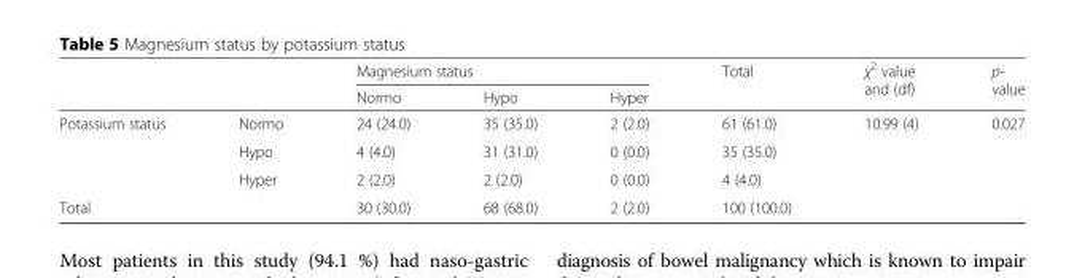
<table><thead><tr><td rowspan="2"></td><td rowspan="2"></td><td colspan="3">Magnesium status</td><td rowspan="2">Total</td><td rowspan="2">χ<sup>2</sup> value and (df)</td><td rowspan="2">p- value</td></tr><tr><td>Normo</td><td>Hypo</td><td>Hyper</td></tr></thead><tbody><tr><td rowspan="3">Potassium status</td><td>Normo</td><td>24 (24.0)</td><td>35 (35.0)</td><td>2 (2.0)</td><td>61 (61.0)</td><td rowspan="4">10.99 (4)</td><td rowspan="4">0.027</td></tr><tr><td>Hypo</td><td>4 (4.0)</td><td>31 (31.0)</td><td>0 (0.0)</td><td>35 (35.0)</td></tr><tr><td>Hyper</td><td>2 (2.0)</td><td>2 (2.0)</td><td>0 (0.0)</td><td>4 (4.0)</td></tr><tr><td>Total</td><td></td><td>30 (30.0)</td><td>68 (68.0)</td><td>2 (2.0)</td><td>100 (100.0)</td></tr></tbody></table>